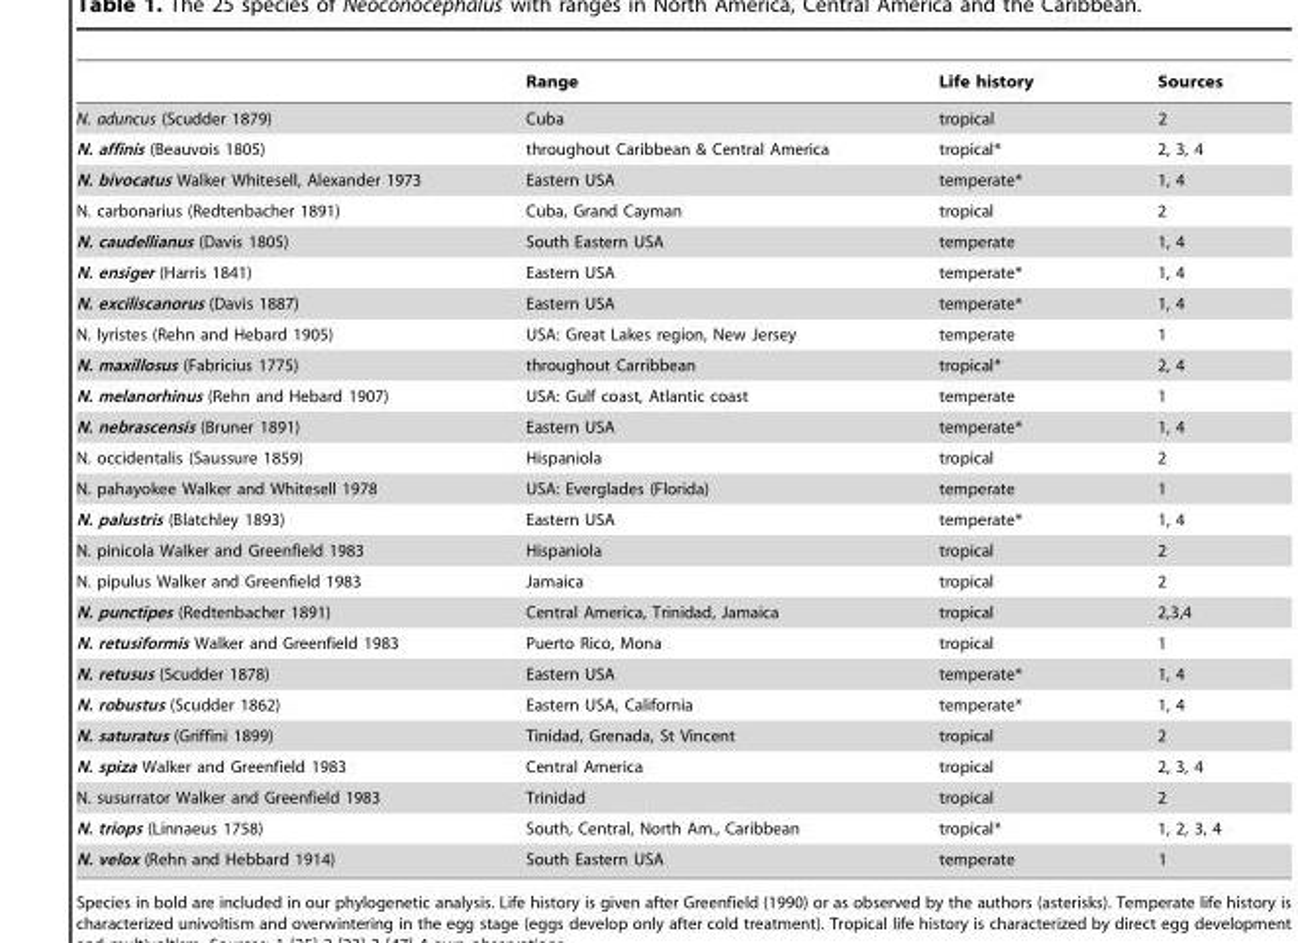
<table><thead><tr><td></td><td>Range</td><td>Life history</td><td>Sources</td></tr></thead><tbody><tr><td>N. aduncus (Scudder 1879)</td><td>Cuba</td><td>tropical</td><td>2</td></tr><tr><td>N. affinis (Beauvois 1805)</td><td>throughout Caribbean &amp; Central America</td><td>tropical*</td><td>2, 3, 4</td></tr><tr><td>N. bivocatus Walker Whitesell, Alexander 1973</td><td>Eastern USA</td><td>temperate*</td><td>1, 4</td></tr><tr><td>N. carbonarius (Redtenbacher 1891)</td><td>Cuba, Grand Cayman</td><td>tropical</td><td>2</td></tr><tr><td>N. caudellianus (Davis 1805)</td><td>South Eastern USA</td><td>temperate</td><td>1, 4</td></tr><tr><td>N. ensiger (Harris 1841)</td><td>Eastern USA</td><td>temperate*</td><td>1, 4</td></tr><tr><td>N. exciliscanorus (Davis 1887)</td><td>Eastern USA</td><td>temperate*</td><td>1, 4</td></tr><tr><td>N. lyristes (Rehn and Hebard 1905)</td><td>USA: Great Lakes region, New Jersey</td><td>temperate</td><td>1</td></tr><tr><td>N. maxillosus (Fabricius 1775)</td><td>throughout Carribbean</td><td>tropical*</td><td>2, 4</td></tr><tr><td>N. melanorhinus (Rehn and Hebard 1907)</td><td>USA: Gulf coast, Atlantic coast</td><td>temperate</td><td>1</td></tr><tr><td>N. nebrascensis (Bruner 1891)</td><td>Eastern USA</td><td>temperate*</td><td>1, 4</td></tr><tr><td>N. occidentalis (Saussure 1859)</td><td>Hispaniola</td><td>tropical</td><td>2</td></tr><tr><td>N. pahayokee Walker and Whitesell 1978</td><td>USA: Everglades (Florida)</td><td>temperate</td><td>1</td></tr><tr><td>N. palustris (Blatchley 1893)</td><td>Eastern USA</td><td>temperate*</td><td>1, 4</td></tr><tr><td>N. pinicola Walker and Greenfield 1983</td><td>Hispaniola</td><td>tropical</td><td>2</td></tr><tr><td>N. pipulus Walker and Greenfield 1983</td><td>Jamaica</td><td>tropical</td><td>2</td></tr><tr><td>N. punctipes (Redtenbacher 1891)</td><td>Central America, Trinidad, Jamaica</td><td>tropical</td><td>2,3,4</td></tr><tr><td>N. retusiformis Walker and Greenfield 1983</td><td>Puerto Rico, Mona</td><td>tropical</td><td>1</td></tr><tr><td>N. retusus (Scudder 1878)</td><td>Eastern USA</td><td>temperate*</td><td>1, 4</td></tr><tr><td>N. robustus (Scudder 1862)</td><td>Eastern USA, California</td><td>temperate*</td><td>1, 4</td></tr><tr><td>N. saturatus (Griffini 1899)</td><td>Tinidad, Grenada, St Vincent</td><td>tropical</td><td>2</td></tr><tr><td>N. spiza Walker and Greenfield 1983</td><td>Central America</td><td>tropical</td><td>2, 3, 4</td></tr><tr><td>N. susurrator Walker and Greenfield 1983</td><td>Trinidad</td><td>tropical</td><td>2</td></tr><tr><td>N. triops (Linnaeus 1758)</td><td>South, Central, North Am., Caribbean</td><td>tropical*</td><td>1, 2, 3, 4</td></tr><tr><td>N. velox (Rehn and Hebbard 1914)</td><td>South Eastern USA</td><td>temperate</td><td>1</td></tr></tbody></table>